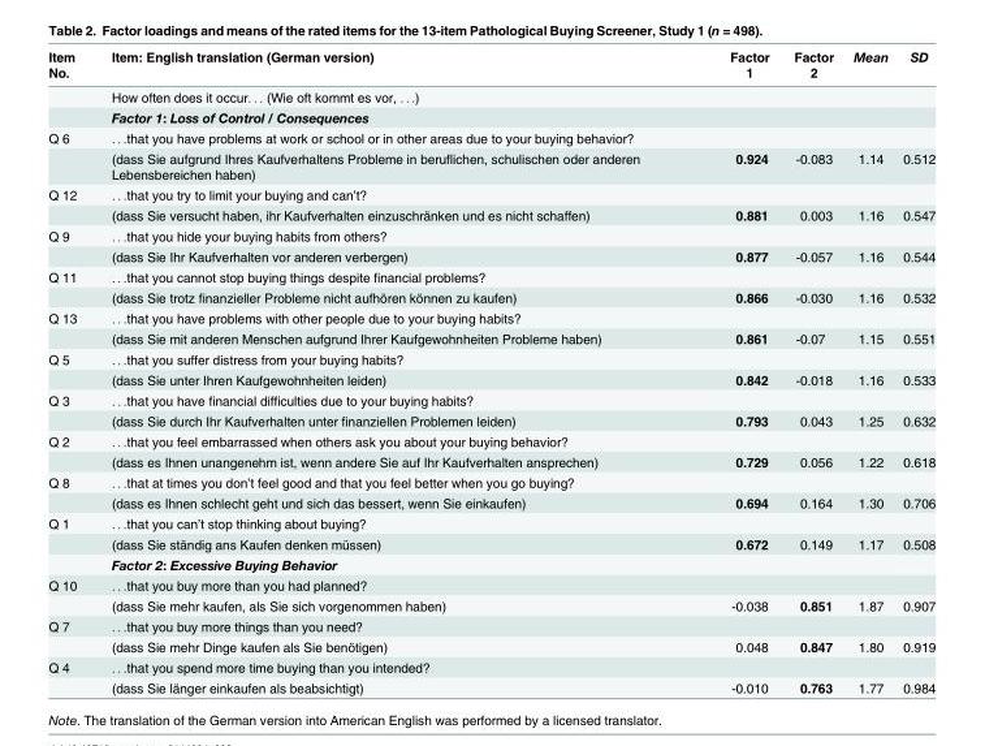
<table><thead><tr><td>Item No.</td><td>Item: English translation (German version)</td><td>Factor 1</td><td>Factor 2</td><td>Mean</td><td>SD</td></tr></thead><tbody><tr><td></td><td>How often does it occur. . . (Wie oft kommt es vor, . . .)</td><td></td><td></td><td></td><td></td></tr><tr><td></td><td>Factor 1: Loss of Control / Consequences</td><td></td><td></td><td></td><td></td></tr><tr><td rowspan="2">Q 6</td><td>. . .that you have problems at work or school or in other areas due to your buying behavior?</td><td></td><td></td><td></td><td></td></tr><tr><td>(dass Sie aufgrund Ihres Kaufverhaltens Probleme in beruflichen, schulischen oder anderen Lebensbereichen haben)</td><td>0.924</td><td>-0.083</td><td>1.14</td><td>0.512</td></tr><tr><td rowspan="2">Q 12</td><td>. . .that you try to limit your buying and can’t?</td><td></td><td></td><td></td><td></td></tr><tr><td>(dass Sie versucht haben, ihr Kaufverhalten einzuschränken und es nicht schaffen)</td><td>0.881</td><td>0.003</td><td>1.16</td><td>0.547</td></tr><tr><td rowspan="2">Q 9</td><td>. . .that you hide your buying habits from others?</td><td></td><td></td><td></td><td></td></tr><tr><td>(dass Sie Ihr Kaufverhalten vor anderen verbergen)</td><td>0.877</td><td>-0.057</td><td>1.16</td><td>0.544</td></tr><tr><td rowspan="2">Q 11</td><td>. . .that you cannot stop buying things despite financial problems?</td><td></td><td></td><td></td><td></td></tr><tr><td>(dass Sie trotz finanzieller Probleme nicht aufhören können zu kaufen)</td><td>0.866</td><td>-0.030</td><td>1.16</td><td>0.532</td></tr><tr><td rowspan="2">Q 13</td><td>. . .that you have problems with other people due to your buying habits?</td><td></td><td></td><td></td><td></td></tr><tr><td>(dass Sie mit anderen Menschen aufgrund Ihrer Kaufgewohnheiten Probleme haben)</td><td>0.861</td><td>-0.07</td><td>1.15</td><td>0.551</td></tr><tr><td rowspan="2">Q 5</td><td>. . .that you suffer distress from your buying habits?</td><td></td><td></td><td></td><td></td></tr><tr><td>(dass Sie unter Ihren Kaufgewohnheiten leiden)</td><td>0.842</td><td>-0.018</td><td>1.16</td><td>0.533</td></tr><tr><td rowspan="2">Q 3</td><td>. . .that you have financial difficulties due to your buying habits?</td><td></td><td></td><td></td><td></td></tr><tr><td>(dass Sie durch Ihr Kaufverhalten unter finanziellen Problemen leiden)</td><td>0.793</td><td>0.043</td><td>1.25</td><td>0.632</td></tr><tr><td rowspan="2">Q 2</td><td>. . .that you feel embarrassed when others ask you about your buying behavior?</td><td></td><td></td><td></td><td></td></tr><tr><td>(dass es Ihnen unangenehm ist, wenn andere Sie auf Ihr Kaufverhalten ansprechen)</td><td>0.729</td><td>0.056</td><td>1.22</td><td>0.618</td></tr><tr><td rowspan="2">Q 8</td><td>. . .that at times you don’t feel good and that you feel better when you go buying?</td><td></td><td></td><td></td><td></td></tr><tr><td>(dass es Ihnen schlecht geht und sich das bessert, wenn Sie einkaufen)</td><td>0.694</td><td>0.164</td><td>1.30</td><td>0.706</td></tr><tr><td rowspan="3">Q 1</td><td>. . .that you can’t stop thinking about buying?</td><td></td><td></td><td></td><td></td></tr><tr><td>(dass Sie ständig ans Kaufen denken müssen)</td><td>0.672</td><td>0.149</td><td>1.17</td><td>0.508</td></tr><tr><td>Factor 2: Excessive Buying Behavior</td><td></td><td></td><td></td><td></td></tr><tr><td rowspan="2">Q 10</td><td>. . .that you buy more than you had planned?</td><td></td><td></td><td></td><td></td></tr><tr><td>(dass Sie mehr kaufen, als Sie sich vorgenommen haben)</td><td>-0.038</td><td>0.851</td><td>1.87</td><td>0.907</td></tr><tr><td rowspan="2">Q 7</td><td>. . .that you buy more things than you need?</td><td></td><td></td><td></td><td></td></tr><tr><td>(dass Sie mehr Dinge kaufen als Sie benötigen)</td><td>0.048</td><td>0.847</td><td>1.80</td><td>0.919</td></tr><tr><td rowspan="2">Q 4</td><td>. . .that you spend more time buying than you intended?</td><td></td><td></td><td></td><td></td></tr><tr><td>(dass Sie länger einkaufen als beabsichtigt)</td><td>-0.010</td><td>0.763</td><td>1.77</td><td>0.984</td></tr></tbody></table>